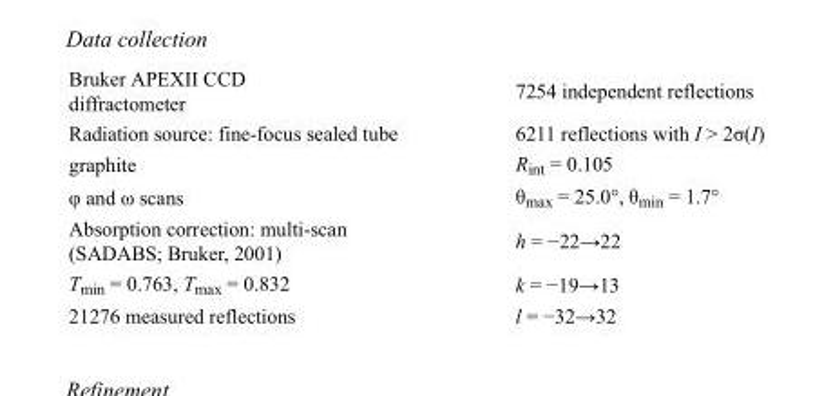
<table><tbody><tr><td>Bruker APEXII CCD diffractometer</td><td>7254 independent reflections</td></tr><tr><td>Radiation source: fine-focus sealed tube</td><td>6211 reflections with I &gt; 2σ(I)</td></tr><tr><td>graphite</td><td>R<sub>int</sub> = 0.105</td></tr><tr><td>φ and ω scans</td><td>θ<sub>max</sub> = 25.0°, θ<sub>min</sub> = 1.7°</td></tr><tr><td>Absorption correction: multi-scan (SADABS; Bruker, 2001)</td><td>h = −22→22</td></tr><tr><td>T<sub>min</sub> = 0.763, T<sub>max</sub> = 0.832</td><td>k = −19→13</td></tr><tr><td>21276 measured reflections</td><td>l = −32→32</td></tr></tbody></table>